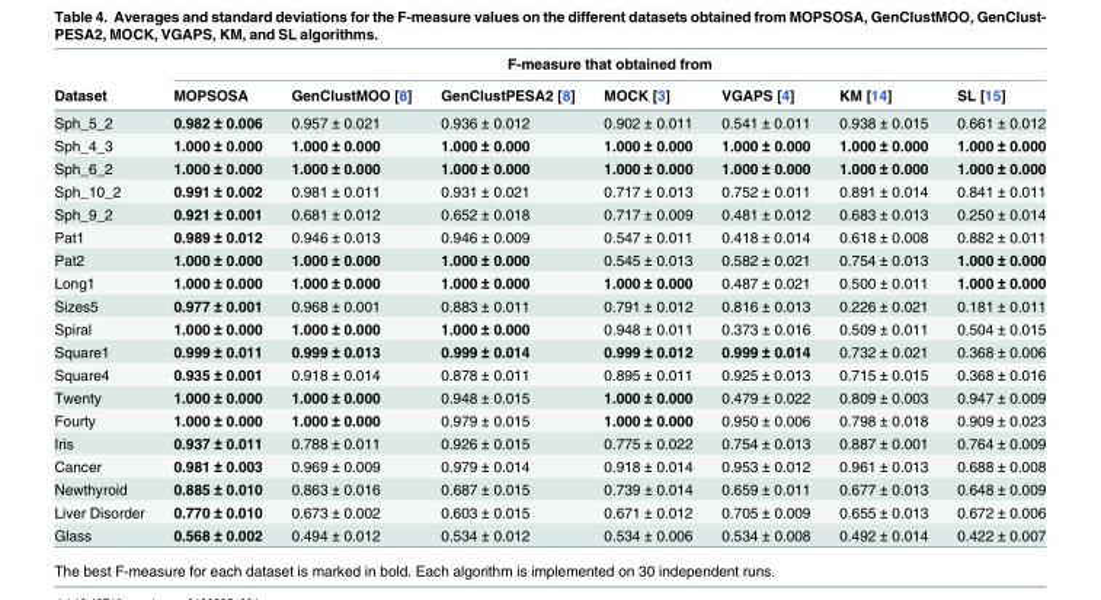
<table><thead><tr><td rowspan="2">Dataset</td><td colspan="7">F-measure that obtained from</td></tr><tr><td>MOPSOSA</td><td>GenClustMOO [8]</td><td>GenClustPESA2 [8]</td><td>MOCK [3]</td><td>VGAPS [4]</td><td>KM [14]</td><td>SL [15]</td></tr></thead><tbody><tr><td>Sph_5_2</td><td>0.982 ± 0.006</td><td>0.957 ± 0.021</td><td>0.936 ± 0.012</td><td>0.902 ± 0.011</td><td>0.541 ± 0.011</td><td>0.938 ± 0.015</td><td>0.661 ± 0.012</td></tr><tr><td>Sph_4_3</td><td>1.000 ± 0.000</td><td>1.000 ± 0.000</td><td>1.000 ± 0.000</td><td>1.000 ± 0.000</td><td>1.000 ± 0.000</td><td>1.000 ± 0.000</td><td>1.000 ± 0.000</td></tr><tr><td>Sph_6_2</td><td>1.000 ± 0.000</td><td>1.000 ± 0.000</td><td>1.000 ± 0.000</td><td>1.000 ± 0.000</td><td>1.000 ± 0.000</td><td>1.000 ± 0.000</td><td>1.000 ± 0.000</td></tr><tr><td>Sph_10_2</td><td>0.991 ± 0.002</td><td>0.981 ± 0.011</td><td>0.931 ± 0.021</td><td>0.717 ± 0.013</td><td>0.752 ± 0.011</td><td>0.891 ± 0.014</td><td>0.841 ± 0.011</td></tr><tr><td>Sph_9_2</td><td>0.921 ± 0.001</td><td>0.681 ± 0.012</td><td>0.652 ± 0.018</td><td>0.717 ± 0.009</td><td>0.481 ± 0.012</td><td>0.683 ± 0.013</td><td>0.250 ± 0.014</td></tr><tr><td>Pat1</td><td>0.989 ± 0.012</td><td>0.946 ± 0.013</td><td>0.946 ± 0.009</td><td>0.547 ± 0.011</td><td>0.418 ± 0.014</td><td>0.618 ± 0.008</td><td>0.882 ± 0.011</td></tr><tr><td>Pat2</td><td>1.000 ± 0.000</td><td>1.000 ± 0.000</td><td>1.000 ± 0.000</td><td>0.545 ± 0.013</td><td>0.582 ± 0.021</td><td>0.754 ± 0.013</td><td>1.000 ± 0.000</td></tr><tr><td>Long1</td><td>1.000 ± 0.000</td><td>1.000 ± 0.000</td><td>1.000 ± 0.000</td><td>1.000 ± 0.000</td><td>0.487 ± 0.021</td><td>0.500 ± 0.011</td><td>1.000 ± 0.000</td></tr><tr><td>Sizes5</td><td>0.977 ± 0.001</td><td>0.968 ± 0.001</td><td>0.883 ± 0.011</td><td>0.791 ± 0.012</td><td>0.816 ± 0.013</td><td>0.226 ± 0.021</td><td>0.181 ± 0.011</td></tr><tr><td>Spiral</td><td>1.000 ± 0.000</td><td>1.000 ± 0.000</td><td>1.000 ± 0.000</td><td>0.948 ± 0.011</td><td>0.373 ± 0.016</td><td>0.509 ± 0.011</td><td>0.504 ± 0.015</td></tr><tr><td>Square1</td><td>0.999 ± 0.011</td><td>0.999 ± 0.013</td><td>0.999 ± 0.014</td><td>0.999 ± 0.012</td><td>0.999 ± 0.014</td><td>0.732 ± 0.021</td><td>0.368 ± 0.006</td></tr><tr><td>Square4</td><td>0.935 ± 0.001</td><td>0.918 ± 0.014</td><td>0.878 ± 0.011</td><td>0.895 ± 0.011</td><td>0.925 ± 0.013</td><td>0.715 ± 0.015</td><td>0.368 ± 0.016</td></tr><tr><td>Twenty</td><td>1.000 ± 0.000</td><td>1.000 ± 0.000</td><td>0.948 ± 0.015</td><td>1.000 ± 0.000</td><td>0.479 ± 0.022</td><td>0.809 ± 0.003</td><td>0.947 ± 0.009</td></tr><tr><td>Fourty</td><td>1.000 ± 0.000</td><td>1.000 ± 0.000</td><td>0.979 ± 0.015</td><td>1.000 ± 0.000</td><td>0.950 ± 0.006</td><td>0.798 ± 0.018</td><td>0.909 ± 0.023</td></tr><tr><td>Iris</td><td>0.937 ± 0.011</td><td>0.788 ± 0.011</td><td>0.926 ± 0.015</td><td>0.775 ± 0.022</td><td>0.754 ± 0.013</td><td>0.887 ± 0.001</td><td>0.764 ± 0.009</td></tr><tr><td>Cancer</td><td>0.981 ± 0.003</td><td>0.969 ± 0.009</td><td>0.979 ± 0.014</td><td>0.918 ± 0.014</td><td>0.953 ± 0.012</td><td>0.961 ± 0.013</td><td>0.688 ± 0.008</td></tr><tr><td>Newthyroid</td><td>0.885 ± 0.010</td><td>0.863 ± 0.016</td><td>0.687 ± 0.015</td><td>0.739 ± 0.014</td><td>0.659 ± 0.011</td><td>0.677 ± 0.013</td><td>0.648 ± 0.009</td></tr><tr><td>Liver Disorder</td><td>0.770 ± 0.010</td><td>0.673 ± 0.002</td><td>0.603 ± 0.015</td><td>0.671 ± 0.012</td><td>0.705 ± 0.009</td><td>0.655 ± 0.013</td><td>0.672 ± 0.006</td></tr><tr><td>Glass</td><td>0.568 ± 0.002</td><td>0.494 ± 0.012</td><td>0.534 ± 0.012</td><td>0.534 ± 0.006</td><td>0.534 ± 0.008</td><td>0.492 ± 0.014</td><td>0.422 ± 0.007</td></tr></tbody></table>